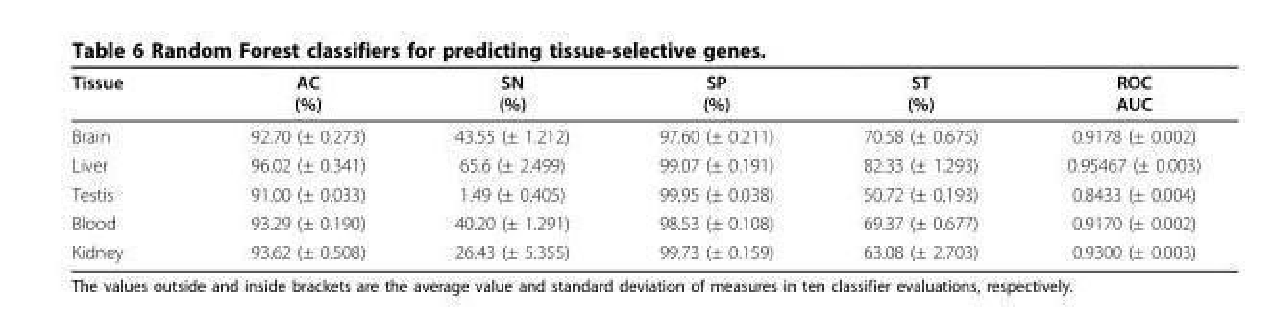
<table><thead><tr><td>Tissue</td><td>AC (%)</td><td>SN (%)</td><td>SP (%)</td><td>ST (%)</td><td>ROC AUC</td></tr></thead><tbody><tr><td>Brain</td><td>92.70 (± 0.273)</td><td>43.55 (± 1.212)</td><td>97.60 (± 0.211)</td><td>70.58 (± 0.675)</td><td>0.9178 (± 0.002)</td></tr><tr><td>Liver</td><td>96.02 (± 0.341)</td><td>65.6 (± 2.499)</td><td>99.07 (± 0.191)</td><td>82.33 (± 1.293)</td><td>0.95467 (± 0.003)</td></tr><tr><td>Testis</td><td>91.00 (± 0.033)</td><td>1.49 (± 0.405)</td><td>99.95 (± 0.038)</td><td>50.72 (± 0.193)</td><td>0.8433 (± 0.004)</td></tr><tr><td>Blood</td><td>93.29 (± 0.190)</td><td>40.20 (± 1.291)</td><td>98.53 (± 0.108)</td><td>69.37 (± 0.677)</td><td>0.9170 (± 0.002)</td></tr><tr><td>Kidney</td><td>93.62 (± 0.508)</td><td>26.43 (± 5.355)</td><td>99.73 (± 0.159)</td><td>63.08 (± 2.703)</td><td>0.9300 (± 0.003)</td></tr></tbody></table>